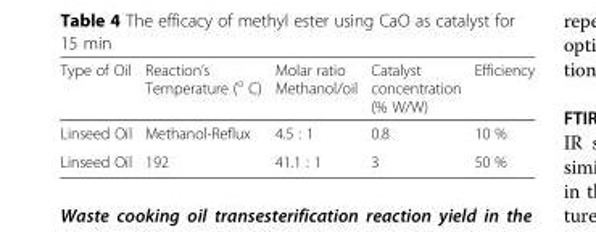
<table><thead><tr><td>Type of Oil</td><td>Reaction’s Temperature (<sup>o</sup> C)</td><td>Molar ratio Methanol/oil</td><td>Catalyst concentration (% W/W)</td><td>Efficiency</td></tr></thead><tbody><tr><td>Linseed Oil</td><td>Methanol-Reflux</td><td>4.5 : 1</td><td>0.8</td><td>10 %</td></tr><tr><td>Linseed Oil</td><td>192</td><td>41.1 : 1</td><td>3</td><td>50 %</td></tr></tbody></table>